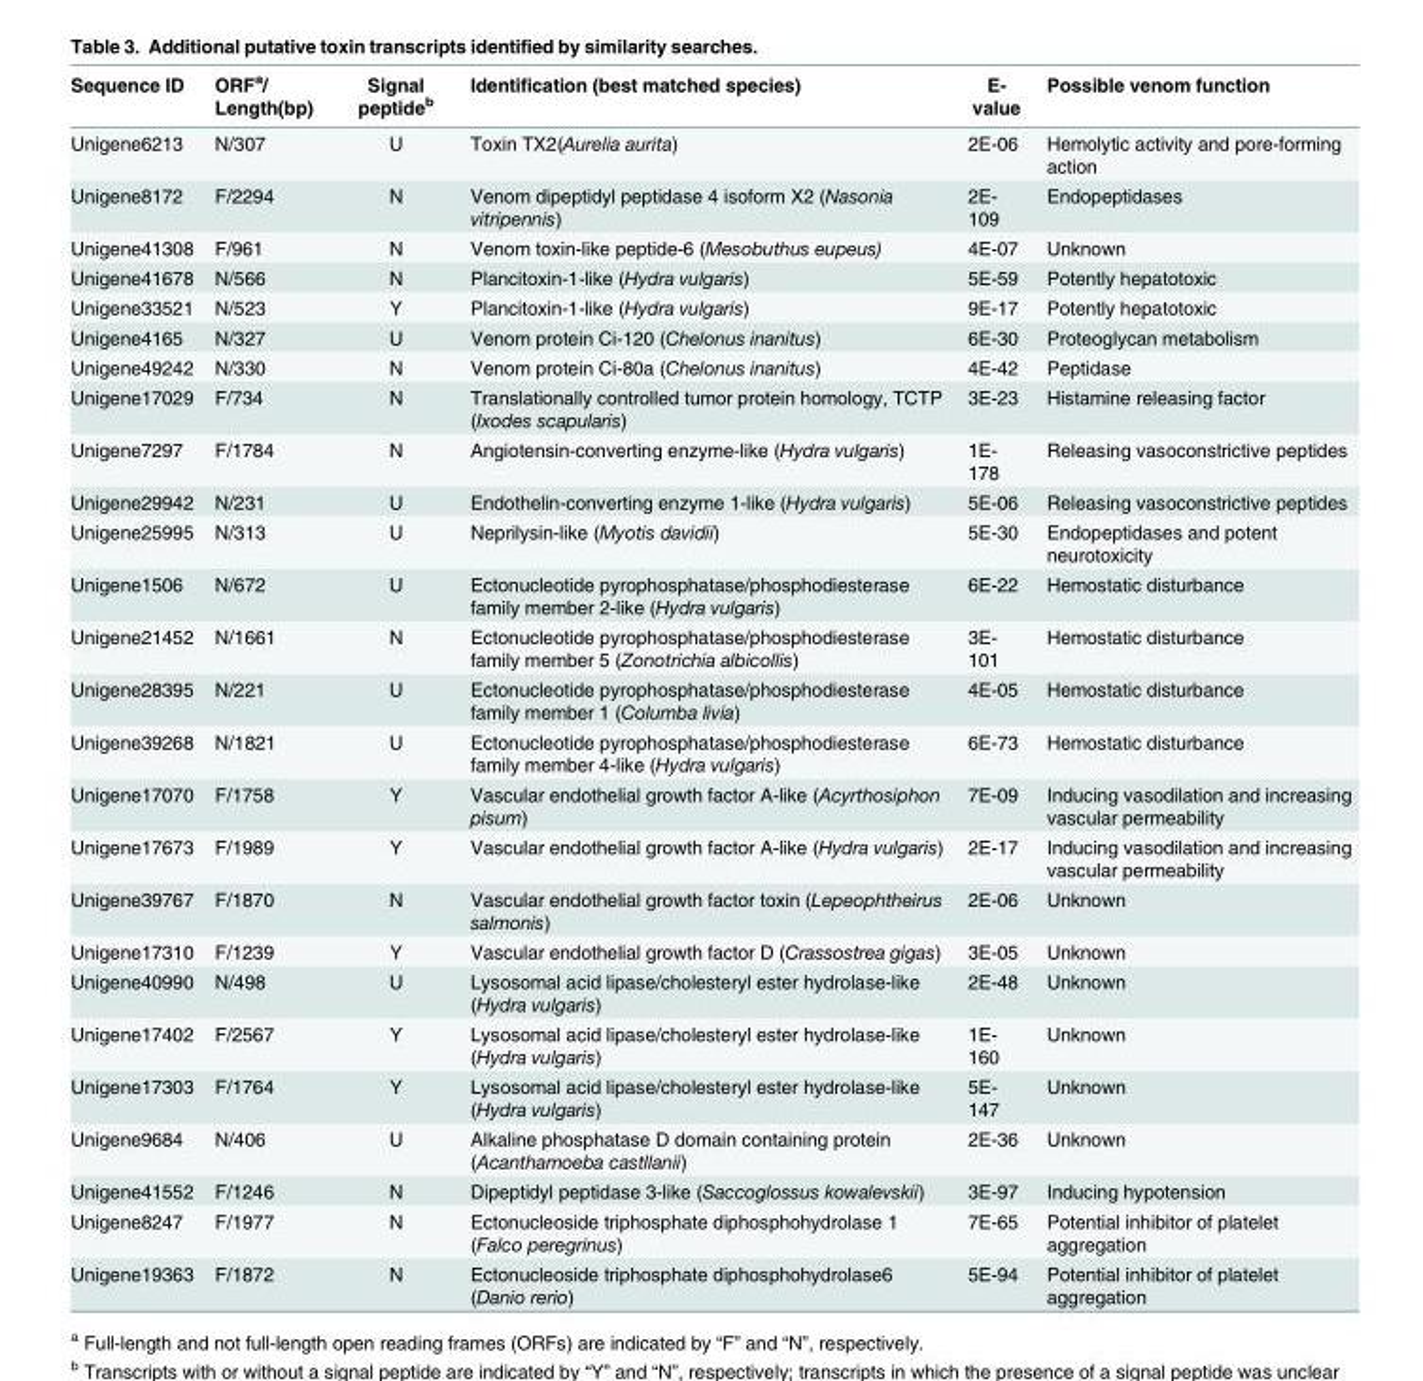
<table><thead><tr><td>Sequence ID</td><td>ORF<sup>a</sup>/ Length(bp)</td><td>Signal peptide<sup>b</sup></td><td>Identification (best matched species)</td><td>E- value</td><td>Possible venom function</td></tr></thead><tbody><tr><td>Unigene6213</td><td>N/307</td><td>U</td><td>Toxin TX2(Aurelia aurita)</td><td>2E-06</td><td>Hemolytic activity and pore-forming action</td></tr><tr><td>Unigene8172</td><td>F/2294</td><td>N</td><td>Venom dipeptidyl peptidase 4 isoform X2 (Nasonia vitripennis)</td><td>2E- 109</td><td>Endopeptidases</td></tr><tr><td>Unigene41308</td><td>F/961</td><td>N</td><td>Venom toxin-like peptide-6 (Mesobuthus eupeus)</td><td>4E-07</td><td>Unknown</td></tr><tr><td>Unigene41678</td><td>N/566</td><td>N</td><td>Plancitoxin-1-like (Hydra vulgaris)</td><td>5E-59</td><td>Potently hepatotoxic</td></tr><tr><td>Unigene33521</td><td>N/523</td><td>Y</td><td>Plancitoxin-1-like (Hydra vulgaris)</td><td>9E-17</td><td>Potently hepatotoxic</td></tr><tr><td>Unigene4165</td><td>N/327</td><td>U</td><td>Venom protein Ci-120 (Chelonus inanitus)</td><td>6E-30</td><td>Proteoglycan metabolism</td></tr><tr><td>Unigene49242</td><td>N/330</td><td>N</td><td>Venom protein Ci-80a (Chelonus inanitus)</td><td>4E-42</td><td>Peptidase</td></tr><tr><td>Unigene17029</td><td>F/734</td><td>N</td><td>Translationally controlled tumor protein homology, TCTP (Ixodes scapularis)</td><td>3E-23</td><td>Histamine releasing factor</td></tr><tr><td>Unigene7297</td><td>F/1784</td><td>N</td><td>Angiotensin-converting enzyme-like (Hydra vulgaris)</td><td>1E- 178</td><td>Releasing vasoconstrictive peptides</td></tr><tr><td>Unigene29942</td><td>N/231</td><td>U</td><td>Endothelin-converting enzyme 1-like (Hydra vulgaris)</td><td>5E-06</td><td>Releasing vasoconstrictive peptides</td></tr><tr><td>Unigene25995</td><td>N/313</td><td>U</td><td>Neprilysin-like (Myotis davidii)</td><td>5E-30</td><td>Endopeptidases and potent neurotoxicity</td></tr><tr><td>Unigene1506</td><td>N/672</td><td>U</td><td>Ectonucleotide pyrophosphatase/phosphodiesterase family member 2-like (Hydra vulgaris)</td><td>6E-22</td><td>Hemostatic disturbance</td></tr><tr><td>Unigene21452</td><td>N/1661</td><td>N</td><td>Ectonucleotide pyrophosphatase/phosphodiesterase family member 5 (Zonotrichia albicollis)</td><td>3E- 101</td><td>Hemostatic disturbance</td></tr><tr><td>Unigene28395</td><td>N/221</td><td>U</td><td>Ectonucleotide pyrophosphatase/phosphodiesterase family member 1 (Columba livia)</td><td>4E-05</td><td>Hemostatic disturbance</td></tr><tr><td>Unigene39268</td><td>N/1821</td><td>U</td><td>Ectonucleotide pyrophosphatase/phosphodiesterase family member 4-like (Hydra vulgaris)</td><td>6E-73</td><td>Hemostatic disturbance</td></tr><tr><td>Unigene17070</td><td>F/1758</td><td>Y</td><td>Vascular endothelial growth factor A-like (Acyrthosiphon pisum)</td><td>7E-09</td><td>Inducing vasodilation and increasing vascular permeability</td></tr><tr><td>Unigene17673</td><td>F/1989</td><td>Y</td><td>Vascular endothelial growth factor A-like (Hydra vulgaris)</td><td>2E-17</td><td>Inducing vasodilation and increasing vascular permeability</td></tr><tr><td>Unigene39767</td><td>F/1870</td><td>N</td><td>Vascular endothelial growth factor toxin (Lepeophtheirus salmonis)</td><td>2E-06</td><td>Unknown</td></tr><tr><td>Unigene17310</td><td>F/1239</td><td>Y</td><td>Vascular endothelial growth factor D (Crassostrea gigas)</td><td>3E-05</td><td>Unknown</td></tr><tr><td>Unigene40990</td><td>N/498</td><td>U</td><td>Lysosomal acid lipase/cholesteryl ester hydrolase-like (Hydra vulgaris)</td><td>2E-48</td><td>Unknown</td></tr><tr><td>Unigene17402</td><td>F/2567</td><td>Y</td><td>Lysosomal acid lipase/cholesteryl ester hydrolase-like (Hydra vulgaris)</td><td>1E- 160</td><td>Unknown</td></tr><tr><td>Unigene17303</td><td>F/1764</td><td>Y</td><td>Lysosomal acid lipase/cholesteryl ester hydrolase-like (Hydra vulgaris)</td><td>5E- 147</td><td>Unknown</td></tr><tr><td>Unigene9684</td><td>N/406</td><td>U</td><td>Alkaline phosphatase D domain containing protein (Acanthamoeba castllanii)</td><td>2E-36</td><td>Unknown</td></tr><tr><td>Unigene41552</td><td>F/1246</td><td>N</td><td>Dipeptidyl peptidase 3-like (Saccoglossus kowalevskii)</td><td>3E-97</td><td>Inducing hypotension</td></tr><tr><td>Unigene8247</td><td>F/1977</td><td>N</td><td>Ectonucleoside triphosphate diphosphohydrolase 1 (Falco peregrinus)</td><td>7E-65</td><td>Potential inhibitor of platelet aggregation</td></tr><tr><td>Unigene19363</td><td>F/1872</td><td>N</td><td>Ectonucleoside triphosphate diphosphohydrolase6 (Danio rerio)</td><td>5E-94</td><td>Potential inhibitor of platelet aggregation</td></tr></tbody></table>